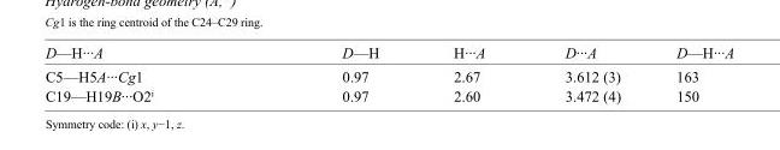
<table><tbody><tr><td>D—H···A</td><td>D—H</td><td>H···A</td><td>D···A</td><td>D—H···A</td></tr><tr><td>C5—H5A···Cg1</td><td>0.97</td><td>2.67</td><td>3.612 (3)</td><td>163</td></tr><tr><td>C19—H19B···O2<sup>i</sup></td><td>0.97</td><td>2.60</td><td>3.472 (4)</td><td>150</td></tr></tbody></table>